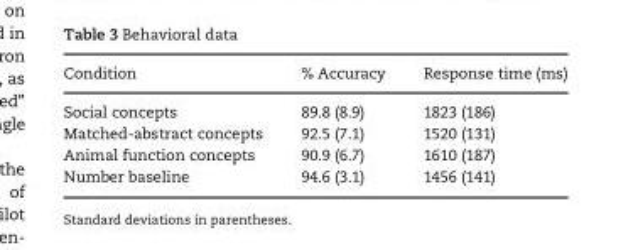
<table><thead><tr><td>Condition</td><td>% Accuracy</td><td>Response time (ms)</td></tr></thead><tbody><tr><td>Social concepts</td><td>89.8 (8.9)</td><td>1823 (186)</td></tr><tr><td>Matched-abstract concepts</td><td>92.5 (7.1)</td><td>1520 (131)</td></tr><tr><td>Animal function concepts</td><td>90.9 (6.7)</td><td>1610 (187)</td></tr><tr><td>Number baseline</td><td>94.6 (3.1)</td><td>1456 (141)</td></tr></tbody></table>